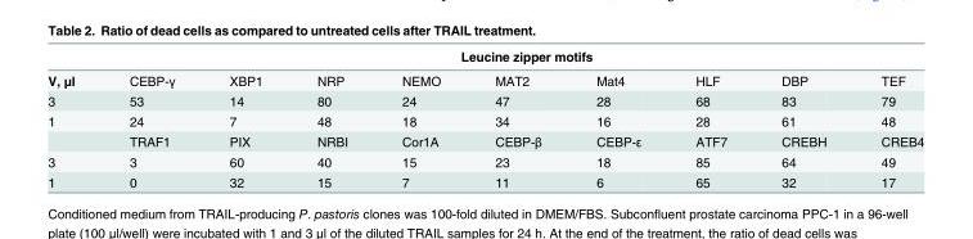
<table><thead><tr><td rowspan="2">V, μl</td><td colspan="9">Leucine zipper motifs</td></tr><tr><td>CEBP-γ</td><td>XBP1</td><td>NRP</td><td>NEMO</td><td>MAT2</td><td>Mat4</td><td>HLF</td><td>DBP</td><td>TEF</td></tr></thead><tbody><tr><td>3</td><td>53</td><td>14</td><td>80</td><td>24</td><td>47</td><td>28</td><td>68</td><td>83</td><td>79</td></tr><tr><td rowspan="2">1</td><td>24</td><td>7</td><td>48</td><td>18</td><td>34</td><td>16</td><td>28</td><td>61</td><td>48</td></tr><tr><td>TRAF1</td><td>PIX</td><td>NRBI</td><td>Cor1A</td><td>CEBP-β</td><td>CEBP-ε</td><td>ATF7</td><td>CREBH</td><td>CREB4</td></tr><tr><td>3</td><td>3</td><td>60</td><td>40</td><td>15</td><td>23</td><td>18</td><td>85</td><td>64</td><td>49</td></tr><tr><td>1</td><td>0</td><td>32</td><td>15</td><td>7</td><td>11</td><td>6</td><td>65</td><td>32</td><td>17</td></tr></tbody></table>